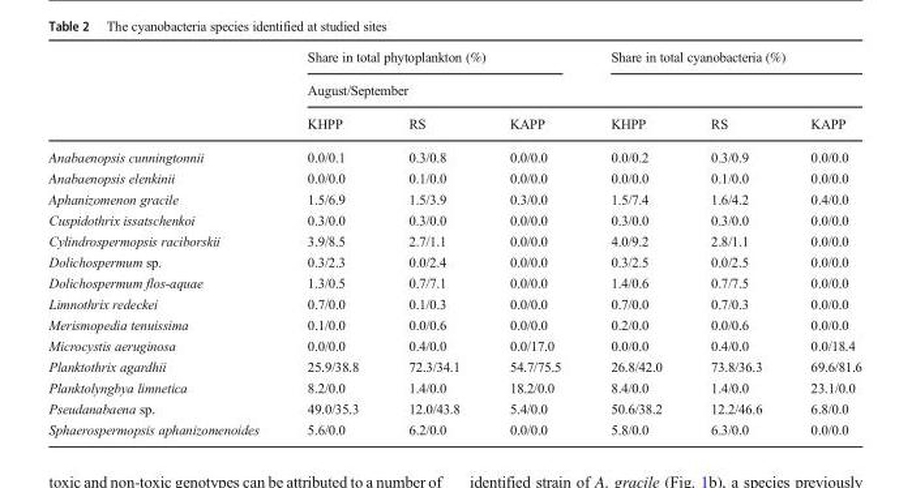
<table><thead><tr><td rowspan="3"></td><td colspan="3">Share in total phytoplankton (%)</td><td colspan="3">Share in total cyanobacteria (%)</td></tr><tr><td colspan="6">August/September</td></tr><tr><td>KHPP</td><td>RS</td><td>KAPP</td><td>KHPP</td><td>RS</td><td>KAPP</td></tr></thead><tbody><tr><td>Anabaenopsis cunningtonnii</td><td>0.0/0.1</td><td>0.3/0.8</td><td>0.0/0.0</td><td>0.0/0.2</td><td>0.3/0.9</td><td>0.0/0.0</td></tr><tr><td>Anabaenopsis elenkinii</td><td>0.0/0.0</td><td>0.1/0.0</td><td>0.0/0.0</td><td>0.0/0.0</td><td>0.1/0.0</td><td>0.0/0.0</td></tr><tr><td>Aphanizomenon gracile</td><td>1.5/6.9</td><td>1.5/3.9</td><td>0.3/0.0</td><td>1.5/7.4</td><td>1.6/4.2</td><td>0.4/0.0</td></tr><tr><td>Cuspidothrix issatschenkoi</td><td>0.3/0.0</td><td>0.3/0.0</td><td>0.0/0.0</td><td>0.3/0.0</td><td>0.3/0.0</td><td>0.0/0.0</td></tr><tr><td>Cylindrospermopsis raciborskii</td><td>3.9/8.5</td><td>2.7/1.1</td><td>0.0/0.0</td><td>4.0/9.2</td><td>2.8/1.1</td><td>0.0/0.0</td></tr><tr><td>Dolichospermum sp.</td><td>0.3/2.3</td><td>0.0/2.4</td><td>0.0/0.0</td><td>0.3/2.5</td><td>0.0/2.5</td><td>0.0/0.0</td></tr><tr><td>Dolichospermum flos-aquae</td><td>1.3/0.5</td><td>0.7/7.1</td><td>0.0/0.0</td><td>1.4/0.6</td><td>0.7/7.5</td><td>0.0/0.0</td></tr><tr><td>Limnothrix redeckei</td><td>0.7/0.0</td><td>0.1/0.3</td><td>0.0/0.0</td><td>0.7/0.0</td><td>0.7/0.3</td><td>0.0/0.0</td></tr><tr><td>Merismopedia tenuissima</td><td>0.1/0.0</td><td>0.0/0.6</td><td>0.0/0.0</td><td>0.2/0.0</td><td>0.0/0.6</td><td>0.0/0.0</td></tr><tr><td>Microcystis aeruginosa</td><td>0.0/0.0</td><td>0.4/0.0</td><td>0.0/17.0</td><td>0.0/0.0</td><td>0.4/0.0</td><td>0.0/18.4</td></tr><tr><td>Planktothrix agardhii</td><td>25.9/38.8</td><td>72.3/34.1</td><td>54.7/75.5</td><td>26.8/42.0</td><td>73.8/36.3</td><td>69.6/81.6</td></tr><tr><td>Planktolyngbya limnetica</td><td>8.2/0.0</td><td>1.4/0.0</td><td>18.2/0.0</td><td>8.4/0.0</td><td>1.4/0.0</td><td>23.1/0.0</td></tr><tr><td>Pseudanabaena sp.</td><td>49.0/35.3</td><td>12.0/43.8</td><td>5.4/0.0</td><td>50.6/38.2</td><td>12.2/46.6</td><td>6.8/0.0</td></tr><tr><td>Sphaerospermopsis aphanizomenoides</td><td>5.6/0.0</td><td>6.2/0.0</td><td>0.0/0.0</td><td>5.8/0.0</td><td>6.3/0.0</td><td>0.0/0.0</td></tr></tbody></table>